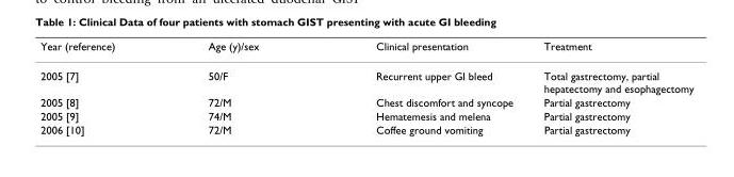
<table><thead><tr><td>Year (reference)</td><td>Age (y)/sex</td><td>Clinical presentation</td><td>Treatment</td></tr></thead><tbody><tr><td>2005 [7]</td><td>50/F</td><td>Recurrent upper GI bleed</td><td>Total gastrectomy, partial hepatectomy and esophagectomy</td></tr><tr><td>2005 [8]</td><td>72/M</td><td>Chest discomfort and syncope</td><td>Partial gastrectomy</td></tr><tr><td>2005 [9]</td><td>74/M</td><td>Hematemesis and melena</td><td>Partial gastrectomy</td></tr><tr><td>2006 [10]</td><td>72/M</td><td>Coffee ground vomiting</td><td>Partial gastrectomy</td></tr></tbody></table>